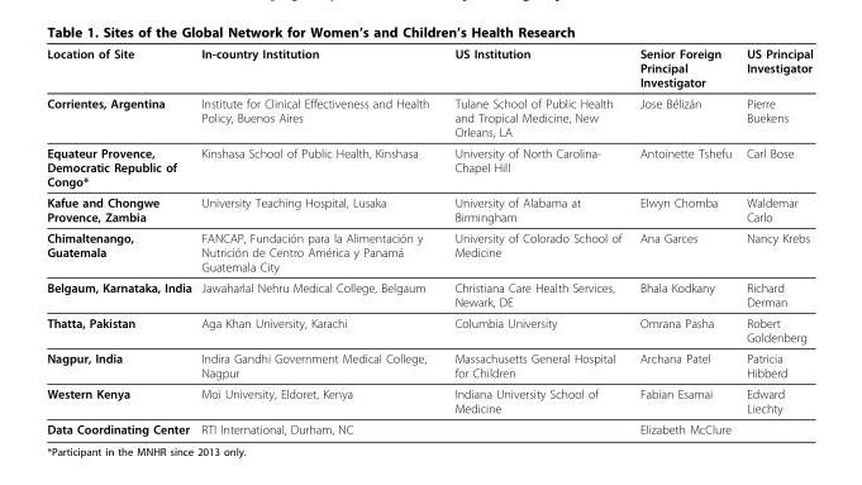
<table><thead><tr><td>Location of Site</td><td>In-country Institution</td><td>US Institution</td><td>Senior Foreign Principal Investigator</td><td>US Principal Investigator</td></tr></thead><tbody><tr><td>Corrientes, Argentina</td><td>Institute for Clinical Effectiveness and Health Policy, Buenos Aires</td><td>Tulane School of Public Health and Tropical Medicine, New Orleans, LA</td><td>Jose Bélizán</td><td>Pierre Buekens</td></tr><tr><td>Equateur Provence, Democratic Republic of Congo*</td><td>Kinshasa School of Public Health, Kinshasa</td><td>University of North Carolina- Chapel Hill</td><td>Antoinette Tshefu</td><td>Carl Bose</td></tr><tr><td>Kafue and Chongwe Provence, Zambia</td><td>University Teaching Hospital, Lusaka</td><td>University of Alabama at Birmingham</td><td>Elwyn Chomba</td><td>Waldemar Carlo</td></tr><tr><td>Chimaltenango, Guatemala</td><td>FANCAP, Fundación para la Alimentación y Nutrición de Centro América y Panamá Guatemala City</td><td>University of Colorado School of Medicine</td><td>Ana Garces</td><td>Nancy Krebs</td></tr><tr><td>Belgaum, Karnataka, India</td><td>Jawaharlal Nehru Medical College, Belgaum</td><td>Christiana Care Health Services, Newark, DE</td><td>Bhala Kodkany</td><td>Richard Derman</td></tr><tr><td>Thatta, Pakistan</td><td>Aga Khan University, Karachi</td><td>Columbia University</td><td>Omrana Pasha</td><td>Robert Goldenberg</td></tr><tr><td>Nagpur, India</td><td>Indira Gandhi Government Medical College, Nagpur</td><td>Massachusetts General Hospital for Children</td><td>Archana Patel</td><td>Patricia Hibberd</td></tr><tr><td>Western Kenya</td><td>Moi University, Eldoret, Kenya</td><td>Indiana University School of Medicine</td><td>Fabian Esamai</td><td>Edward Liechty</td></tr><tr><td>Data Coordinating Center</td><td colspan="2">RTI International, Durham, NC</td><td colspan="2">Elizabeth McClure</td></tr></tbody></table>